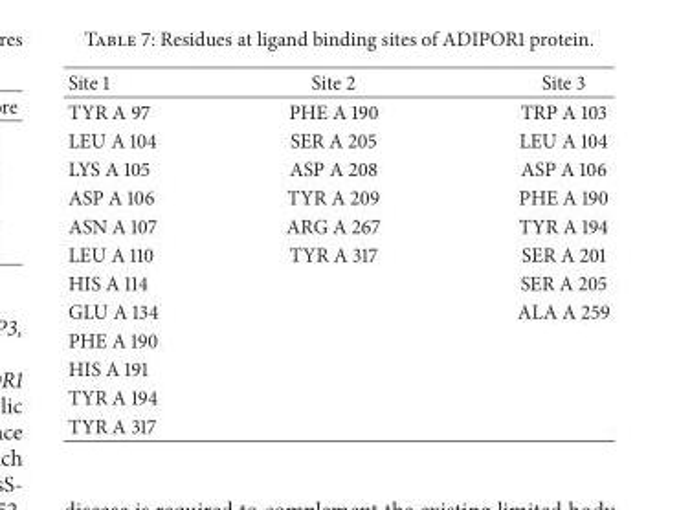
<table><thead><tr><td>Site 1</td><td>Site 2</td><td>Site 3</td></tr></thead><tbody><tr><td>TYR A 97</td><td>PHE A 190</td><td>TRP A 103</td></tr><tr><td>LEU A 104</td><td>SER A 205</td><td>LEU A 104</td></tr><tr><td>LYS A 105</td><td>ASP A 208</td><td>ASP A 106</td></tr><tr><td>ASP A 106</td><td>TYR A 209</td><td>PHE A 190</td></tr><tr><td>ASN A 107</td><td>ARG A 267</td><td>TYR A 194</td></tr><tr><td>LEU A 110</td><td>TYR A 317</td><td>SER A 201</td></tr><tr><td>HIS A 114</td><td></td><td>SER A 205</td></tr><tr><td>GLU A 134</td><td></td><td>ALA A 259</td></tr><tr><td colspan="3">PHE A 190</td></tr><tr><td colspan="3">HIS A 191</td></tr><tr><td colspan="3">TYR A 194</td></tr><tr><td>TYR A 317</td><td></td><td></td></tr></tbody></table>